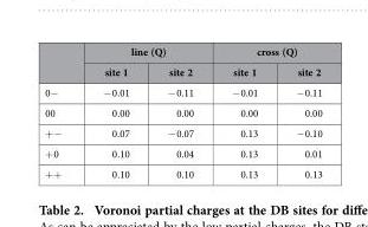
<table><thead><tr><td rowspan="2"></td><td colspan="2">line (Q)</td><td colspan="2">cross (Q)</td></tr><tr><td>site 1</td><td>site 2</td><td>site 1</td><td>site 2</td></tr></thead><tbody><tr><td>0−</td><td>− 0.01</td><td>− 0.11</td><td>− 0.01</td><td>− 0.11</td></tr><tr><td>00</td><td>0.00</td><td>0.00</td><td>0.00</td><td>0.00</td></tr><tr><td>+ −</td><td>0.07</td><td>− 0.07</td><td>0.13</td><td>− 0.10</td></tr><tr><td>+ 0</td><td>0.10</td><td>0.04</td><td>0.13</td><td>0.01</td></tr><tr><td>+ +</td><td>0.10</td><td>0.10</td><td>0.13</td><td>0.13</td></tr></tbody></table>